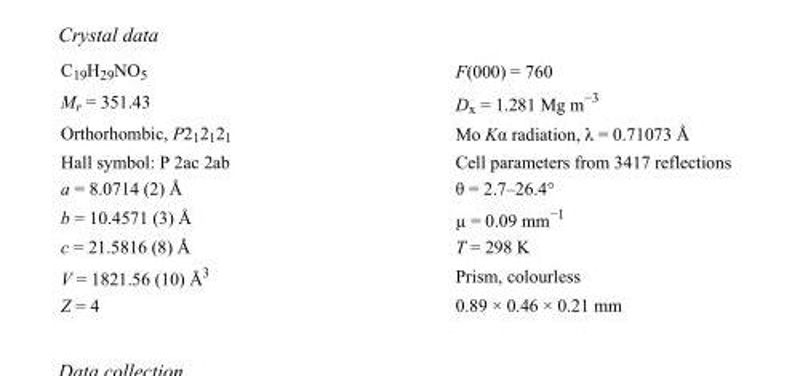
<table><tbody><tr><td>C<sub>19</sub>H<sub>29</sub>NO<sub>5</sub></td><td>F(000) = 760</td></tr><tr><td>M<sub>r</sub> = 351.43</td><td>D<sub>x</sub> = 1.281 Mg m<sup>−3</sup></td></tr><tr><td>Orthorhombic, P2<sub>1</sub>2<sub>1</sub>2<sub>1</sub></td><td>Mo Kα radiation, λ = 0.71073 Å</td></tr><tr><td>Hall symbol: P 2ac 2ab</td><td>Cell parameters from 3417 reflections</td></tr><tr><td>a = 8.0714 (2) Å</td><td>θ = 2.7–26.4°</td></tr><tr><td>b = 10.4571 (3) Å</td><td>µ = 0.09 mm<sup>−1</sup></td></tr><tr><td>c = 21.5816 (8) Å</td><td>T = 298 K</td></tr><tr><td>V = 1821.56 (10) Å<sup>3</sup></td><td>Prism, colourless</td></tr><tr><td>Z = 4</td><td>0.89 × 0.46 × 0.21 mm</td></tr></tbody></table>